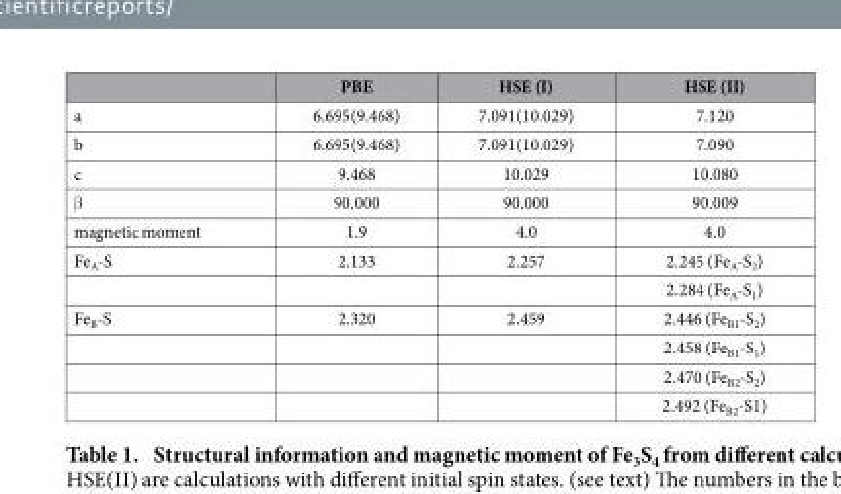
<table><thead><tr><td></td><td>PBE</td><td>HSE (I)</td><td>HSE (II)</td></tr></thead><tbody><tr><td>a</td><td>6.695(9.468)</td><td>7.091(10.029)</td><td>7.120</td></tr><tr><td>b</td><td>6.695(9.468)</td><td>7.091(10.029)</td><td>7.090</td></tr><tr><td>c</td><td>9.468</td><td>10.029</td><td>10.080</td></tr><tr><td>β</td><td>90.000</td><td>90.000</td><td>90.009</td></tr><tr><td>magnetic moment</td><td>1.9</td><td>4.0</td><td>4.0</td></tr><tr><td rowspan="2">Fe<sub>A</sub>-S</td><td>2.133</td><td>2.257</td><td>2.245 (Fe<sub>A</sub>-S<sub>2</sub>)</td></tr><tr><td></td><td></td><td>2.284 (Fe<sub>A</sub>-S<sub>1</sub>)</td></tr><tr><td rowspan="4">Fe<sub>B</sub>-S</td><td>2.320</td><td>2.459</td><td>2.446 (Fe<sub>B1</sub>-S<sub>2</sub>)</td></tr><tr><td></td><td></td><td>2.458 (Fe<sub>B1</sub>-S<sub>1</sub>)</td></tr><tr><td></td><td></td><td>2.470 (Fe<sub>B2</sub>-S<sub>2</sub>)</td></tr><tr><td></td><td></td><td>2.492 (Fe<sub>B2</sub>-S1)</td></tr></tbody></table>